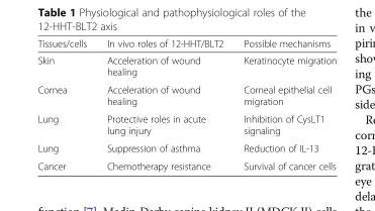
<table><thead><tr><td>Tissues/cells</td><td>In vivo roles of 12-HHT/BLT2</td><td>Possible mechanisms</td></tr></thead><tbody><tr><td>Skin</td><td>Acceleration of wound healing</td><td>Keratinocyte migration</td></tr><tr><td>Cornea</td><td>Acceleration of wound healing</td><td>Corneal epithelial cell migration</td></tr><tr><td>Lung</td><td>Protective roles in acute lung injury</td><td>Inhibition of CysLT1 signaling</td></tr><tr><td>Lung</td><td>Suppression of asthma</td><td>Reduction of IL-13</td></tr><tr><td>Cancer</td><td>Chemotherapy resistance</td><td>Survival of cancer cells</td></tr></tbody></table>